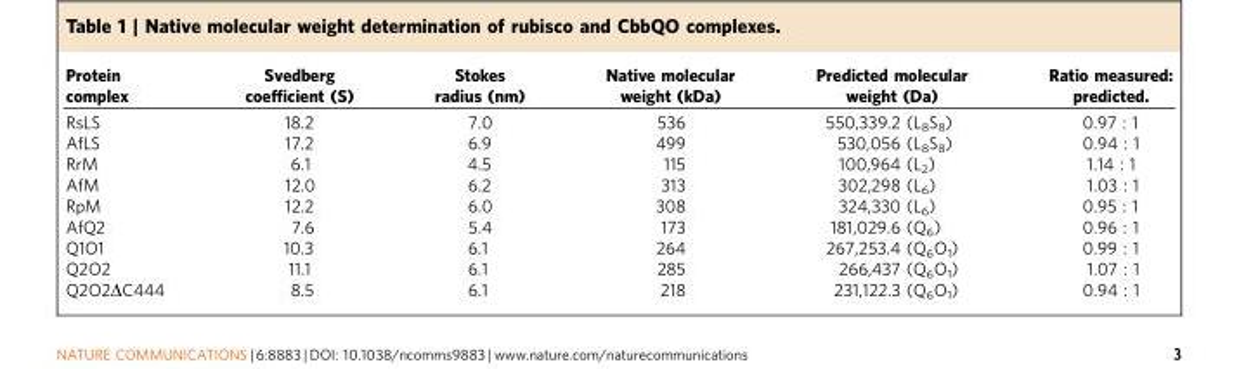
<table><thead><tr><td>Protein complex</td><td>Svedberg coefficient (S)</td><td>Stokes radius (nm)</td><td>Native molecular weight (kDa)</td><td>Predicted molecular weight (Da)</td><td>Ratio measured: predicted.</td></tr></thead><tbody><tr><td>RsLS</td><td>18.2</td><td>7.0</td><td>536</td><td>550,339.2 (L<sub>8</sub>S<sub>8</sub>)</td><td>0.97 : 1</td></tr><tr><td>AfLS</td><td>17.2</td><td>6.9</td><td>499</td><td>530,056 (L<sub>8</sub>S<sub>8</sub>)</td><td>0.94 : 1</td></tr><tr><td>RrM</td><td>6.1</td><td>4.5</td><td>115</td><td>100,964 (L<sub>2</sub>)</td><td>1.14 : 1</td></tr><tr><td>AfM</td><td>12.0</td><td>6.2</td><td>313</td><td>302,298 (L<sub>6</sub>)</td><td>1.03 : 1</td></tr><tr><td>RpM</td><td>12.2</td><td>6.0</td><td>308</td><td>324,330 (L<sub>6</sub>)</td><td>0.95 : 1</td></tr><tr><td>AfQ2</td><td>7.6</td><td>5.4</td><td>173</td><td>181,029.6 (Q<sub>6</sub>)</td><td>0.96 : 1</td></tr><tr><td>Q1O1</td><td>10.3</td><td>6.1</td><td>264</td><td>267,253.4 (Q<sub>6</sub>O<sub>1</sub>)</td><td>0.99 : 1</td></tr><tr><td>Q2O2</td><td>11.1</td><td>6.1</td><td>285</td><td>266,437 (Q<sub>6</sub>O<sub>1</sub>)</td><td>1.07 : 1</td></tr><tr><td>Q2O2ΔC444</td><td>8.5</td><td>6.1</td><td>218</td><td>231,122.3 (Q<sub>6</sub>O<sub>1</sub>)</td><td>0.94 : 1</td></tr></tbody></table>